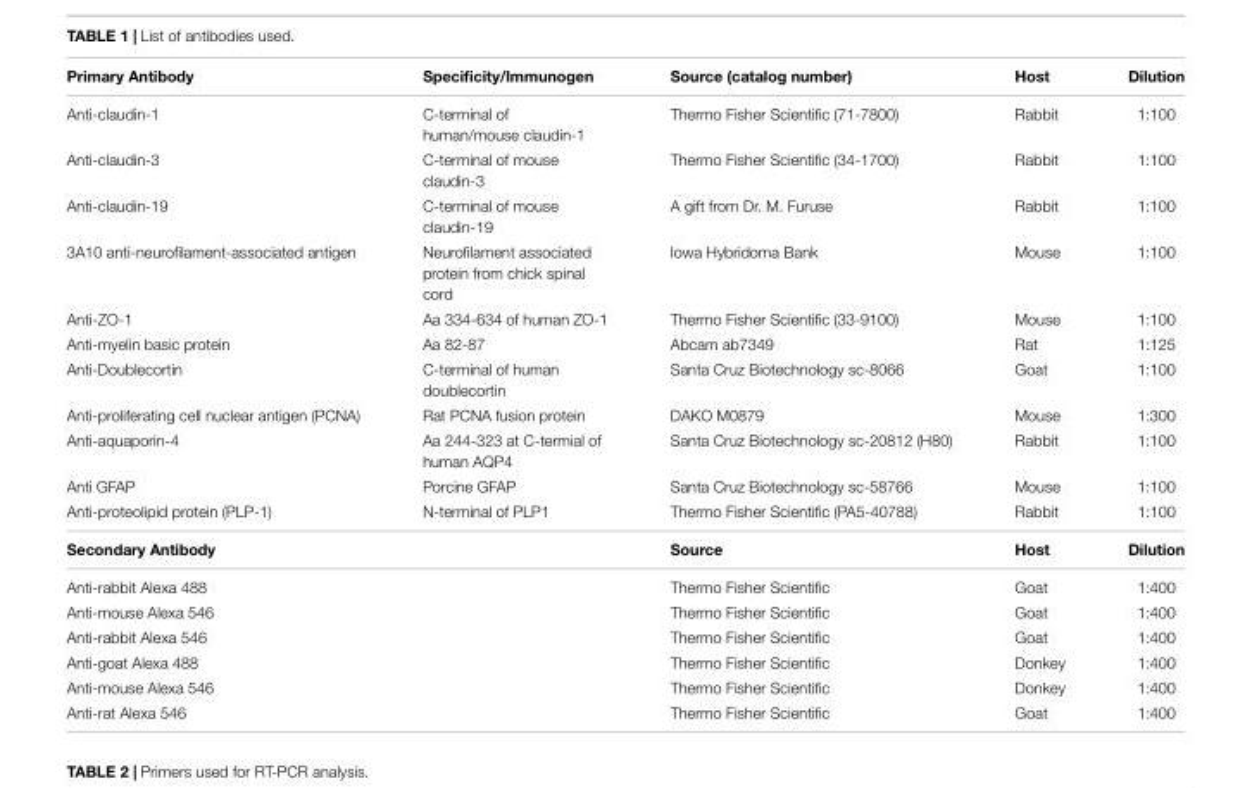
<table><thead><tr><td>Primary Antibody</td><td>Specificity/Immunogen</td><td>Source (catalog number)</td><td>Host</td><td>Dilution</td></tr></thead><tbody><tr><td>Anti-claudin-1</td><td>C-terminal of human/mouse claudin-1</td><td>Thermo Fisher Scientific (71-7800)</td><td>Rabbit</td><td>1:100</td></tr><tr><td>Anti-claudin-3</td><td>C-terminal of mouse claudin-3</td><td>Thermo Fisher Scientific (34-1700)</td><td>Rabbit</td><td>1:100</td></tr><tr><td>Anti-claudin-19</td><td>C-terminal of mouse claudin-19</td><td>A gift from Dr. M. Furuse</td><td>Rabbit</td><td>1:100</td></tr><tr><td>3A10 anti-neurofilament-associated antigen</td><td>Neurofilament associated protein from chick spinal cord</td><td>Iowa Hybridoma Bank</td><td>Mouse</td><td>1:100</td></tr><tr><td>Anti-ZO-1</td><td>Aa 334-634 of human ZO-1</td><td>Thermo Fisher Scientific (33-9100)</td><td>Mouse</td><td>1:100</td></tr><tr><td>Anti-myelin basic protein</td><td>Aa 82-87</td><td>Abcam ab7349</td><td>Rat</td><td>1:125</td></tr><tr><td>Anti-Doublecortin</td><td>C-terminal of human doublecortin</td><td>Santa Cruz Biotechnology sc-8066</td><td>Goat</td><td>1:100</td></tr><tr><td>Anti-proliferating cell nuclear antigen (PCNA)</td><td>Rat PCNA fusion protein</td><td>DAKO M0879</td><td>Mouse</td><td>1:300</td></tr><tr><td>Anti-aquaporin-4</td><td>Aa 244-323 at C-termial of human AQP4</td><td>Santa Cruz Biotechnology sc-20812 (H80)</td><td>Rabbit</td><td>1:100</td></tr><tr><td>Anti GFAP</td><td>Porcine GFAP</td><td>Santa Cruz Biotechnology sc-58766</td><td>Mouse</td><td>1:100</td></tr><tr><td>Anti-proteolipid protein (PLP-1)</td><td>N-terminal of PLP1</td><td>Thermo Fisher Scientific (PA5-40788)</td><td>Rabbit</td><td>1:100</td></tr><tr><td>Secondary Antibody</td><td></td><td>Source</td><td>Host</td><td>Dilution</td></tr><tr><td>Anti-rabbit Alexa 488</td><td></td><td>Thermo Fisher Scientific</td><td>Goat</td><td>1:400</td></tr><tr><td>Anti-mouse Alexa 546</td><td></td><td>Thermo Fisher Scientific</td><td>Goat</td><td>1:400</td></tr><tr><td>Anti-rabbit Alexa 546</td><td></td><td>Thermo Fisher Scientific</td><td>Goat</td><td>1:400</td></tr><tr><td>Anti-goat Alexa 488</td><td></td><td>Thermo Fisher Scientific</td><td>Donkey</td><td>1:400</td></tr><tr><td>Anti-mouse Alexa 546</td><td></td><td>Thermo Fisher Scientific</td><td>Donkey</td><td>1:400</td></tr><tr><td>Anti-rat Alexa 546</td><td></td><td>Thermo Fisher Scientific</td><td>Goat</td><td>1:400</td></tr></tbody></table>